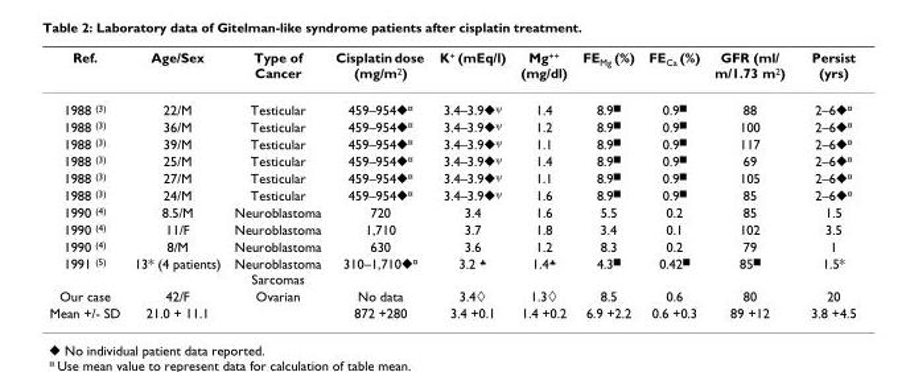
<table><thead><tr><td>Ref.</td><td>Age/Sex</td><td>Type of Cancer</td><td>Cisplatin dose (mg/m<sup>2</sup>)</td><td>K<sup>+</sup> (mEq/l)</td><td>Mg<sup>++</sup> (mg/dl)</td><td>FE<sub>Mg</sub> (%)</td><td>FE<sub>Ca</sub> (%)</td><td>GFR (ml/ m/1.73 m<sup>2</sup>)</td><td>Persist (yrs)</td></tr></thead><tbody><tr><td>1988 <sup>(3)</sup></td><td>22/M</td><td>Testicular</td><td>459–954<sup>◆¤</sup></td><td>3.4–3.9<sup>◆ψ</sup></td><td>1.4</td><td>8.9<sup>■</sup></td><td>0.9<sup>■</sup></td><td>88</td><td>2–6<sup>◆¤</sup></td></tr><tr><td>1988 <sup>(3)</sup></td><td>36/M</td><td>Testicular</td><td>459–954<sup>◆¤</sup></td><td>3.4–3.9<sup>◆ψ</sup></td><td>1.2</td><td>8.9<sup>■</sup></td><td>0.9<sup>■</sup></td><td>100</td><td>2–6<sup>◆¤</sup></td></tr><tr><td>1988 <sup>(3)</sup></td><td>39/M</td><td>Testicular</td><td>459–954<sup>◆¤</sup></td><td>3.4–3.9<sup>◆ψ</sup></td><td>1.1</td><td>8.9<sup>■</sup></td><td>0.9<sup>■</sup></td><td>117</td><td>2–6<sup>◆¤</sup></td></tr><tr><td>1988 <sup>(3)</sup></td><td>25/M</td><td>Testicular</td><td>459–954<sup>◆¤</sup></td><td>3.4–3.9<sup>◆ψ</sup></td><td>1.4</td><td>8.9<sup>■</sup></td><td>0.9<sup>■</sup></td><td>69</td><td>2–6<sup>◆¤</sup></td></tr><tr><td>1988 <sup>(3)</sup></td><td>27/M</td><td>Testicular</td><td>459–954<sup>◆¤</sup></td><td>3.4–3.9<sup>◆ψ</sup></td><td>1.1</td><td>8.9<sup>■</sup></td><td>0.9<sup>■</sup></td><td>105</td><td>2–6<sup>◆¤</sup></td></tr><tr><td>1988 <sup>(3)</sup></td><td>24/M</td><td>Testicular</td><td>459–954<sup>◆¤</sup></td><td>3.4–3.9<sup>◆ψ</sup></td><td>1.6</td><td>8.9<sup>■</sup></td><td>0.9<sup>■</sup></td><td>85</td><td>2–6<sup>◆¤</sup></td></tr><tr><td>1990 <sup>(4)</sup></td><td>8.5/M</td><td>Neuroblastoma</td><td>720</td><td>3.4</td><td>1.6</td><td>5.5</td><td>0.2</td><td>85</td><td>1.5</td></tr><tr><td>1990 <sup>(4)</sup></td><td>11/F</td><td>Neuroblastoma</td><td>1,710</td><td>3.7</td><td>1.8</td><td>3.4</td><td>0.1</td><td>102</td><td>3.5</td></tr><tr><td>1990 <sup>(4)</sup></td><td>8/M</td><td>Neuroblastoma</td><td>630</td><td>3.6</td><td>1.2</td><td>8.3</td><td>0.2</td><td>79</td><td>1</td></tr><tr><td>1991 <sup>(5)</sup></td><td>13* (4 patients)</td><td>Neuroblastoma Sarcomas</td><td>310–1,710<sup>◆¤</sup></td><td>3.2 <sup>♣</sup></td><td>1.4<sup>♣</sup></td><td>4.3<sup>■</sup></td><td>0.42<sup>■</sup></td><td>85<sup>■</sup></td><td>1.5*</td></tr><tr><td>Our case</td><td>42/F</td><td>Ovarian</td><td>No data</td><td>3.4<sup>◇</sup></td><td>1.3<sup>◇</sup></td><td>8.5</td><td>0.6</td><td>80</td><td>20</td></tr><tr><td>Mean +/- SD</td><td>21.0 + 11.1</td><td></td><td>872 +280</td><td>3.4 +0.1</td><td>1.4 +0.2</td><td>6.9 +2.2</td><td>0.6 +0.3</td><td>89 +12</td><td>3.8 +4.5</td></tr></tbody></table>